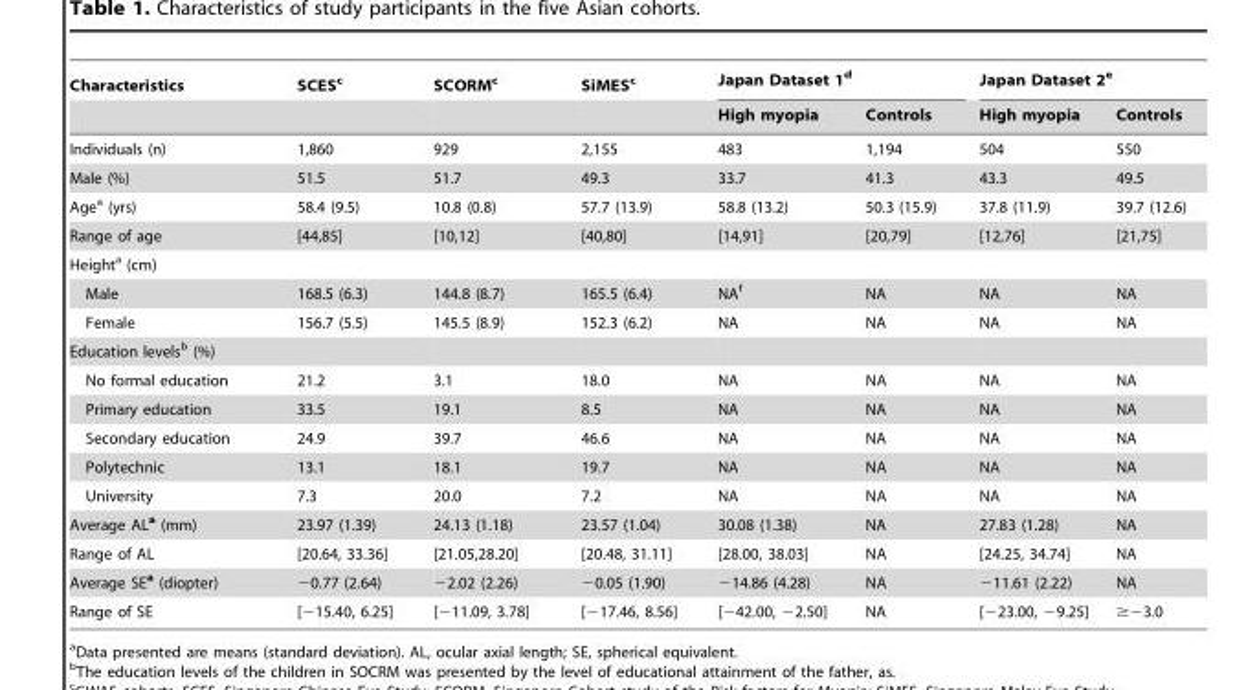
<table><thead><tr><td rowspan="2">Characteristics</td><td rowspan="2">SCES<sup>c</sup></td><td rowspan="2">SCORM<sup>c</sup></td><td rowspan="2">SiMES<sup>c</sup></td><td colspan="2">Japan Dataset 1<sup>d</sup></td><td colspan="2">Japan Dataset 2<sup>e</sup></td></tr><tr><td>High myopia</td><td>Controls</td><td>High myopia</td><td>Controls</td></tr></thead><tbody><tr><td>Individuals (n)</td><td>1,860</td><td>929</td><td>2,155</td><td>483</td><td>1,194</td><td>504</td><td>550</td></tr><tr><td>Male (%)</td><td>51.5</td><td>51.7</td><td>49.3</td><td>33.7</td><td>41.3</td><td>43.3</td><td>49.5</td></tr><tr><td>Age<sup>a</sup> (yrs)</td><td>58.4 (9.5)</td><td>10.8 (0.8)</td><td>57.7 (13.9)</td><td>58.8 (13.2)</td><td>50.3 (15.9)</td><td>37.8 (11.9)</td><td>39.7 (12.6)</td></tr><tr><td>Range of age</td><td>[44,85]</td><td>[10,12]</td><td>[40,80]</td><td>[14,91]</td><td>[20,79]</td><td>[12,76]</td><td>[21,75]</td></tr><tr><td colspan="8">Height<sup>a</sup> (cm)</td></tr><tr><td>Male</td><td>168.5 (6.3)</td><td>144.8 (8.7)</td><td>165.5 (6.4)</td><td>NA<sup>f</sup></td><td>NA</td><td>NA</td><td>NA</td></tr><tr><td>Female</td><td>156.7 (5.5)</td><td>145.5 (8.9)</td><td>152.3 (6.2)</td><td>NA</td><td>NA</td><td>NA</td><td>NA</td></tr><tr><td colspan="8">Education levels<sup>b</sup> (%)</td></tr><tr><td>No formal education</td><td>21.2</td><td>3.1</td><td>18.0</td><td>NA</td><td>NA</td><td>NA</td><td>NA</td></tr><tr><td>Primary education</td><td>33.5</td><td>19.1</td><td>8.5</td><td>NA</td><td>NA</td><td>NA</td><td>NA</td></tr><tr><td>Secondary education</td><td>24.9</td><td>39.7</td><td>46.6</td><td>NA</td><td>NA</td><td>NA</td><td>NA</td></tr><tr><td>Polytechnic</td><td>13.1</td><td>18.1</td><td>19.7</td><td>NA</td><td>NA</td><td>NA</td><td>NA</td></tr><tr><td>University</td><td>7.3</td><td>20.0</td><td>7.2</td><td>NA</td><td>NA</td><td>NA</td><td>NA</td></tr><tr><td>Average AL<sup>a</sup> (mm)</td><td>23.97 (1.39)</td><td>24.13 (1.18)</td><td>23.57 (1.04)</td><td>30.08 (1.38)</td><td>NA</td><td>27.83 (1.28)</td><td>NA</td></tr><tr><td>Range of AL</td><td>[20.64, 33.36]</td><td>[21.05,28.20]</td><td>[20.48, 31.11]</td><td>[28.00, 38.03]</td><td>NA</td><td>[24.25, 34.74]</td><td>NA</td></tr><tr><td>Average SE<sup>a</sup> (diopter)</td><td>−0.77 (2.64)</td><td>−2.02 (2.26)</td><td>−0.05 (1.90)</td><td>−14.86 (4.28)</td><td>NA</td><td>−11.61 (2.22)</td><td>NA</td></tr><tr><td>Range of SE</td><td>[−15.40, 6.25]</td><td>[−11.09, 3.78]</td><td>[−17.46, 8.56]</td><td>[−42.00, −2.50]</td><td>NA</td><td>[−23.00, −9.25]</td><td>≥−3.0</td></tr></tbody></table>